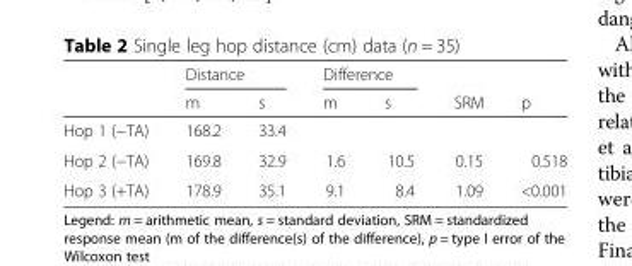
<table><thead><tr><td rowspan="2"></td><td colspan="2">Distance</td><td colspan="2">Difference</td><td rowspan="2">SRM</td><td rowspan="2">p</td></tr><tr><td>m</td><td>s</td><td>m</td><td>s</td></tr></thead><tbody><tr><td>Hop 1 (−TA)</td><td>168.2</td><td>33.4</td><td></td><td></td><td></td><td></td></tr><tr><td>Hop 2 (−TA)</td><td>169.8</td><td>32.9</td><td>1.6</td><td>10.5</td><td>0.15</td><td>0.518</td></tr><tr><td>Hop 3 (+TA)</td><td>178.9</td><td>35.1</td><td>9.1</td><td>8.4</td><td>1.09</td><td>&lt;0.001</td></tr></tbody></table>